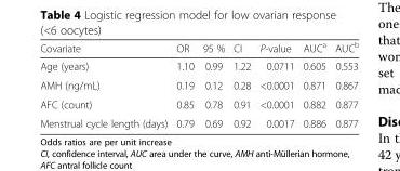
<table><thead><tr><td>Covariate</td><td>OR</td><td>95 %</td><td>CI</td><td>P-value</td><td>AUC<sup>a</sup></td><td>AUC<sup>b</sup></td></tr></thead><tbody><tr><td>Age (years)</td><td>1.10</td><td>0.99</td><td>1.22</td><td>0.0711</td><td>0.605</td><td>0.553</td></tr><tr><td>AMH (ng/mL)</td><td>0.19</td><td>0.12</td><td>0.28</td><td>&lt;0.0001</td><td>0.871</td><td>0.867</td></tr><tr><td>AFC (count)</td><td>0.85</td><td>0.78</td><td>0.91</td><td>&lt;0.0001</td><td>0.882</td><td>0.877</td></tr><tr><td>Menstrual cycle length (days)</td><td>0.79</td><td>0.69</td><td>0.92</td><td>0.0017</td><td>0.886</td><td>0.877</td></tr></tbody></table>